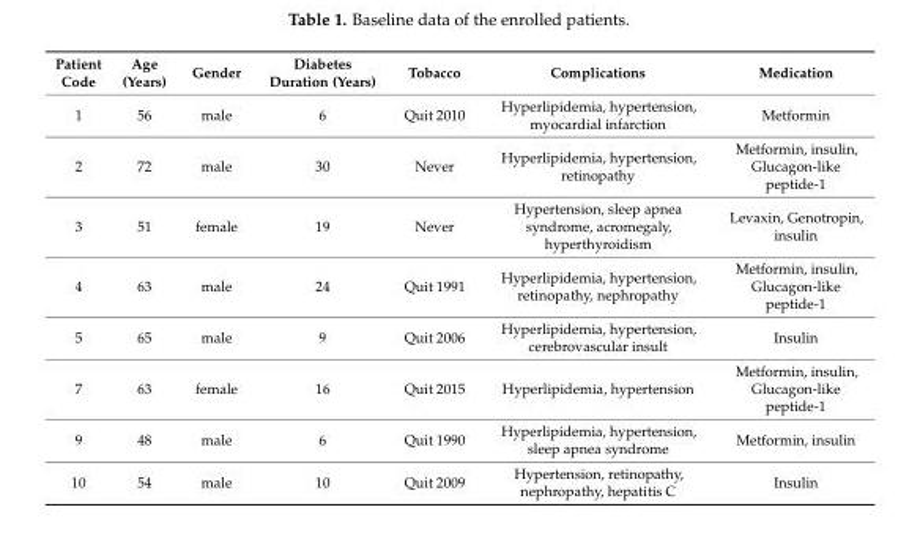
<table><thead><tr><td>Patient Code</td><td>Age (Years)</td><td>Gender</td><td>Diabetes Duration (Years)</td><td>Tobacco</td><td>Complications</td><td>Medication</td></tr></thead><tbody><tr><td>1</td><td>56</td><td>male</td><td>6</td><td>Quit 2010</td><td>Hyperlipidemia, hypertension, myocardial infarction</td><td>Metformin</td></tr><tr><td>2</td><td>72</td><td>male</td><td>30</td><td>Never</td><td>Hyperlipidemia, hypertension, retinopathy</td><td>Metformin, insulin, Glucagon-like peptide-1</td></tr><tr><td>3</td><td>51</td><td>female</td><td>19</td><td>Never</td><td>Hypertension, sleep apnea syndrome, acromegaly, hyperthyroidism</td><td>Levaxin, Genotropin, insulin</td></tr><tr><td>4</td><td>63</td><td>male</td><td>24</td><td>Quit 1991</td><td>Hyperlipidemia, hypertension, retinopathy, nephropathy</td><td>Metformin, insulin, Glucagon-like peptide-1</td></tr><tr><td>5</td><td>65</td><td>male</td><td>9</td><td>Quit 2006</td><td>Hyperlipidemia, hypertension, cerebrovascular insult</td><td>Insulin</td></tr><tr><td>7</td><td>63</td><td>female</td><td>16</td><td>Quit 2015</td><td>Hyperlipidemia, hypertension</td><td>Metformin, insulin, Glucagon-like peptide-1</td></tr><tr><td>9</td><td>48</td><td>male</td><td>6</td><td>Quit 1990</td><td>Hyperlipidemia, hypertension, sleep apnea syndrome</td><td>Metformin, insulin</td></tr><tr><td>10</td><td>54</td><td>male</td><td>10</td><td>Quit 2009</td><td>Hypertension, retinopathy, nephropathy, hepatitis C</td><td>Insulin</td></tr></tbody></table>